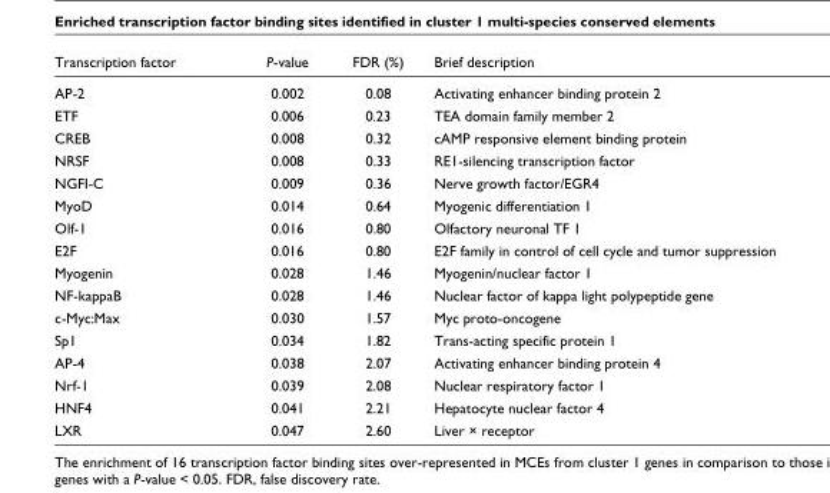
<table><thead><tr><td>Transcription factor</td><td>P-value</td><td>FDR (%)</td><td>Brief description</td></tr></thead><tbody><tr><td>AP-2</td><td>0.002</td><td>0.08</td><td>Activating enhancer binding protein 2</td></tr><tr><td>ETF</td><td>0.006</td><td>0.23</td><td>TEA domain family member 2</td></tr><tr><td>CREB</td><td>0.008</td><td>0.32</td><td>cAMP responsive element binding protein</td></tr><tr><td>NRSF</td><td>0.008</td><td>0.33</td><td>RE1-silencing transcription factor</td></tr><tr><td>NGFI-C</td><td>0.009</td><td>0.36</td><td>Nerve growth factor/EGR4</td></tr><tr><td>MyoD</td><td>0.014</td><td>0.64</td><td>Myogenic differentiation 1</td></tr><tr><td>Olf-1</td><td>0.016</td><td>0.80</td><td>Olfactory neuronal TF 1</td></tr><tr><td>E2F</td><td>0.016</td><td>0.80</td><td>E2F family in control of cell cycle and tumor suppression</td></tr><tr><td>Myogenin</td><td>0.028</td><td>1.46</td><td>Myogenin/nuclear factor 1</td></tr><tr><td>NF-kappaB</td><td>0.028</td><td>1.46</td><td>Nuclear factor of kappa light polypeptide gene</td></tr><tr><td>c-Myc:Max</td><td>0.030</td><td>1.57</td><td>Myc proto-oncogene</td></tr><tr><td>Sp1</td><td>0.034</td><td>1.82</td><td>Trans-acting specific protein 1</td></tr><tr><td>AP-4</td><td>0.038</td><td>2.07</td><td>Activating enhancer binding protein 4</td></tr><tr><td>Nrf-1</td><td>0.039</td><td>2.08</td><td>Nuclear respiratory factor 1</td></tr><tr><td>HNF4</td><td>0.041</td><td>2.21</td><td>Hepatocyte nuclear factor 4</td></tr><tr><td>LXR</td><td>0.047</td><td>2.60</td><td>Liver × receptor</td></tr></tbody></table>